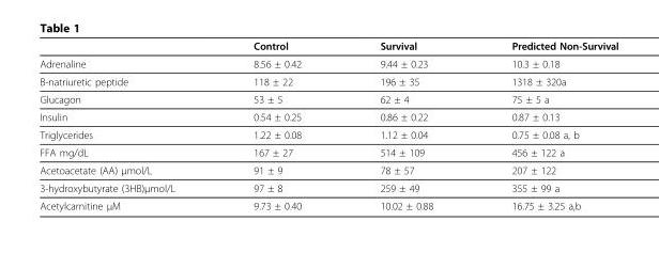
<table><thead><tr><td></td><td>Control</td><td>Survival</td><td>Predicted Non-Survival</td></tr></thead><tbody><tr><td>Adrenaline</td><td>8.56 ± 0.42</td><td>9.44 ± 0.23</td><td>10.3 ± 0.18</td></tr><tr><td>B-natriuretic peptide</td><td>118 ± 22</td><td>196 ± 35</td><td>1318 ± 320a</td></tr><tr><td>Glucagon</td><td>53 ± 5</td><td>62 ± 4</td><td>75 ± 5 a</td></tr><tr><td>Insulin</td><td>0.54 ± 0.25</td><td>0.86 ± 0.22</td><td>0.87 ± 0.13</td></tr><tr><td>Triglycerides</td><td>1.22 ± 0.08</td><td>1.12 ± 0.04</td><td>0.75 ± 0.08 a, b</td></tr><tr><td>FFA mg/dL</td><td>167 ± 27</td><td>514 ± 109</td><td>456 ± 122 a</td></tr><tr><td>Acetoacetate (AA) µmol/L</td><td>91 ± 9</td><td>78 ± 57</td><td>207 ± 122</td></tr><tr><td>3-hydroxybutyrate (3HB)µmol/L</td><td>97 ± 8</td><td>259 ± 49</td><td>355 ± 99 a</td></tr><tr><td>Acetylcarnitine µM</td><td>9.73 ± 0.40</td><td>10.02 ± 0.88</td><td>16.75 ± 3.25 a,b</td></tr></tbody></table>